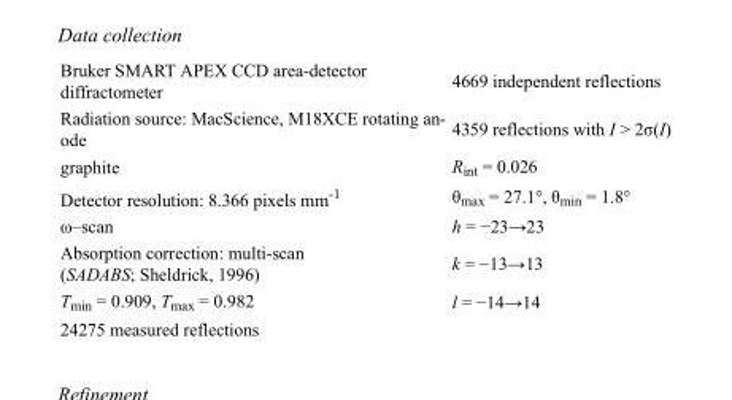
<table><tbody><tr><td>Bruker SMART APEX CCD area-detector diffractometer</td><td>4669 independent reflections</td></tr><tr><td>Radiation source: MacScience, M18XCE rotating an- ode</td><td>4359 reflections with I &gt; 2σ(I)</td></tr><tr><td>graphite</td><td>R<sub>int</sub> = 0.026</td></tr><tr><td>Detector resolution: 8.366 pixels mm<sup>-1</sup></td><td>θ<sub>max</sub> = 27.1°, θ<sub>min</sub> = 1.8°</td></tr><tr><td>ω–scan</td><td>h = −23→23</td></tr><tr><td>Absorption correction: multi-scan (SADABS; Sheldrick, 1996)</td><td>k = −13→13</td></tr><tr><td>T<sub>min</sub> = 0.909, T<sub>max</sub> = 0.982</td><td>l = −14→14</td></tr><tr><td>24275 measured reflections</td><td></td></tr></tbody></table>